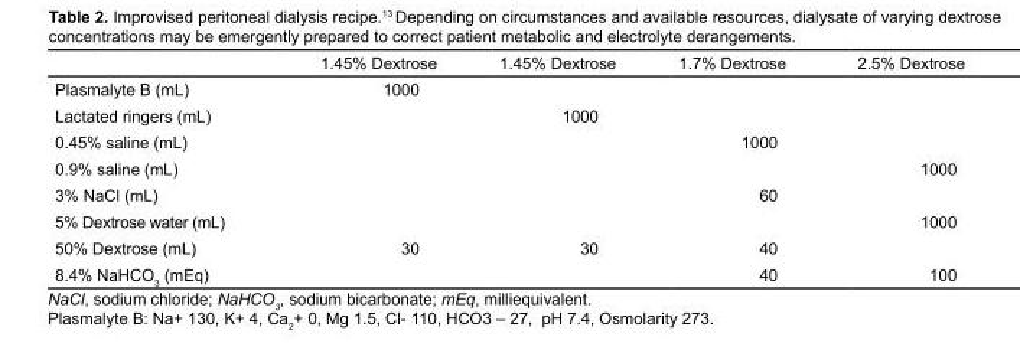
<table><thead><tr><td></td><td>1.45% Dextrose</td><td>1.45% Dextrose</td><td>1.7% Dextrose</td><td>2.5% Dextrose</td></tr></thead><tbody><tr><td>Plasmalyte B (mL)</td><td>1000</td><td></td><td></td><td></td></tr><tr><td>Lactated ringers (mL)</td><td></td><td>1000</td><td></td><td></td></tr><tr><td>0.45% saline (mL)</td><td></td><td></td><td>1000</td><td></td></tr><tr><td>0.9% saline (mL)</td><td></td><td></td><td></td><td>1000</td></tr><tr><td>3% NaCl (mL)</td><td></td><td></td><td>60</td><td></td></tr><tr><td>5% Dextrose water (mL)</td><td></td><td></td><td></td><td>1000</td></tr><tr><td>50% Dextrose (mL)</td><td>30</td><td>30</td><td>40</td><td></td></tr><tr><td>8.4% NaHCO<sub>3</sub> (mEq)</td><td></td><td></td><td>40</td><td>100</td></tr></tbody></table>